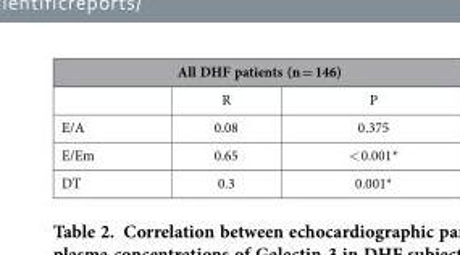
<table><thead><tr><td colspan="3">All DHF patients (n = 146)</td></tr><tr><td></td><td>R</td><td>P</td></tr></thead><tbody><tr><td>E/A</td><td>0.08</td><td>0.375</td></tr><tr><td>E/Em</td><td>0.65</td><td>&lt; 0.001*</td></tr><tr><td>DT</td><td>0.3</td><td>0.001*</td></tr></tbody></table>